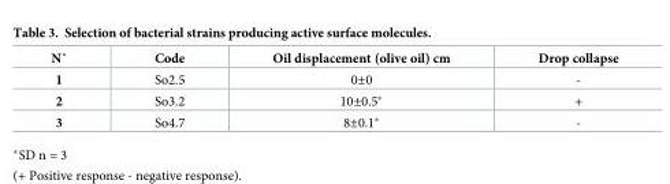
<table><thead><tr><td>N˚</td><td>Code</td><td>Oil displacement (olive oil) cm</td><td>Drop collapse</td></tr></thead><tbody><tr><td>1</td><td>So2.5</td><td>0±0</td><td>-</td></tr><tr><td>2</td><td>So3.2</td><td>10±0.5*</td><td>+</td></tr><tr><td>3</td><td>So4.7</td><td>8±0.1*</td><td>-</td></tr></tbody></table>